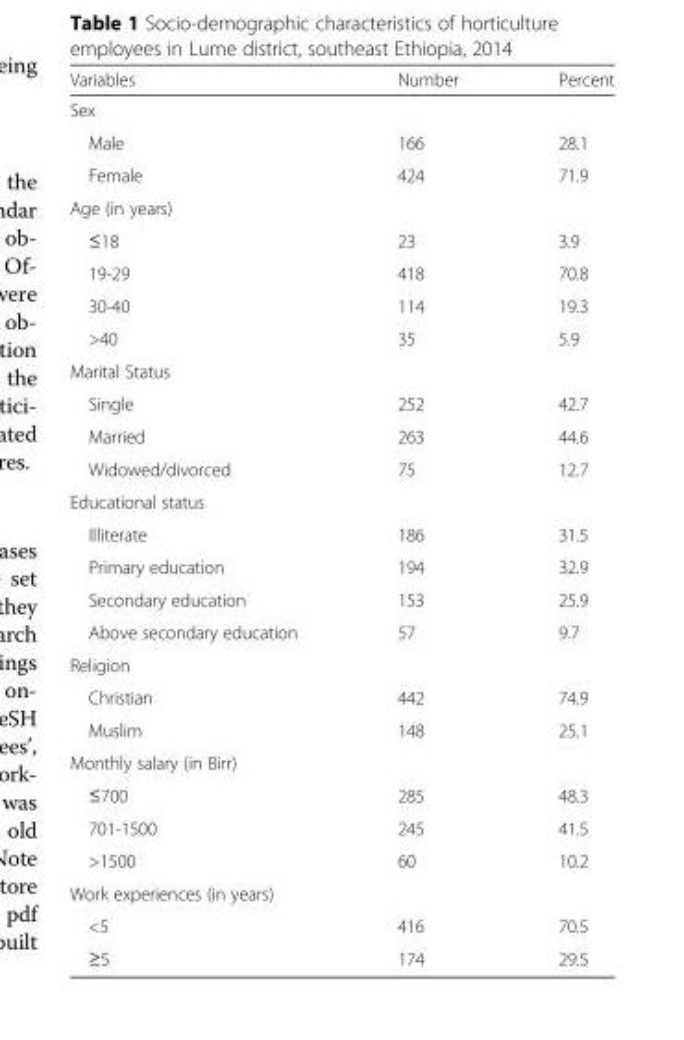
<table><thead><tr><td>Variables</td><td>Number</td><td>Percent</td></tr></thead><tbody><tr><td colspan="3">Sex</td></tr><tr><td>Male</td><td>166</td><td>28.1</td></tr><tr><td>Female</td><td>424</td><td>71.9</td></tr><tr><td colspan="3">Age (in years)</td></tr><tr><td>≤18</td><td>23</td><td>3.9</td></tr><tr><td>19-29</td><td>418</td><td>70.8</td></tr><tr><td>30-40</td><td>114</td><td>19.3</td></tr><tr><td>&gt;40</td><td>35</td><td>5.9</td></tr><tr><td colspan="3">Marital Status</td></tr><tr><td>Single</td><td>252</td><td>42.7</td></tr><tr><td>Married</td><td>263</td><td>44.6</td></tr><tr><td>Widowed/divorced</td><td>75</td><td>12.7</td></tr><tr><td colspan="3">Educational status</td></tr><tr><td>Illiterate</td><td>186</td><td>31.5</td></tr><tr><td>Primary education</td><td>194</td><td>32.9</td></tr><tr><td>Secondary education</td><td>153</td><td>25.9</td></tr><tr><td>Above secondary education</td><td>57</td><td>9.7</td></tr><tr><td colspan="3">Religion</td></tr><tr><td>Christian</td><td>442</td><td>74.9</td></tr><tr><td>Muslim</td><td>148</td><td>25.1</td></tr><tr><td colspan="3">Monthly salary (in Birr)</td></tr><tr><td>≤700</td><td>285</td><td>48.3</td></tr><tr><td>701-1500</td><td>245</td><td>41.5</td></tr><tr><td>&gt;1500</td><td>60</td><td>10.2</td></tr><tr><td colspan="3">Work experiences (in years)</td></tr><tr><td>&lt;5</td><td>416</td><td>70.5</td></tr><tr><td>≥5</td><td>174</td><td>29.5</td></tr></tbody></table>